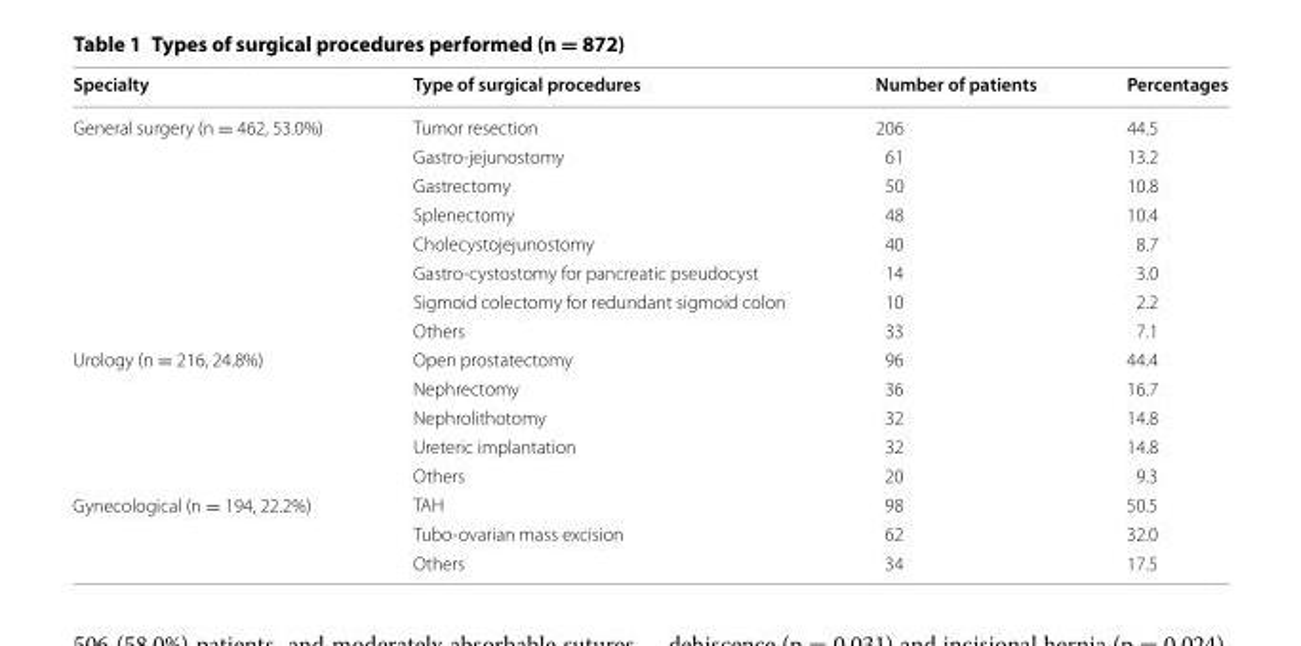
<table><thead><tr><td>Specialty</td><td>Type of surgical procedures</td><td>Number of patients</td><td>Percentages</td></tr></thead><tbody><tr><td rowspan="8">General surgery (n = 462, 53.0%)</td><td>Tumor resection</td><td>206</td><td>44.5</td></tr><tr><td>Gastro-jejunostomy</td><td>61</td><td>13.2</td></tr><tr><td>Gastrectomy</td><td>50</td><td>10.8</td></tr><tr><td>Splenectomy</td><td>48</td><td>10.4</td></tr><tr><td>Cholecystojejunostomy</td><td>40</td><td>8.7</td></tr><tr><td>Gastro-cystostomy for pancreatic pseudocyst</td><td>14</td><td>3.0</td></tr><tr><td>Sigmoid colectomy for redundant sigmoid colon</td><td>10</td><td>2.2</td></tr><tr><td>Others</td><td>33</td><td>7.1</td></tr><tr><td rowspan="5">Urology (n = 216, 24.8%)</td><td>Open prostatectomy</td><td>96</td><td>44.4</td></tr><tr><td>Nephrectomy</td><td>36</td><td>16.7</td></tr><tr><td>Nephrolithotomy</td><td>32</td><td>14.8</td></tr><tr><td>Ureteric implantation</td><td>32</td><td>14.8</td></tr><tr><td>Others</td><td>20</td><td>9.3</td></tr><tr><td rowspan="3">Gynecological (n = 194, 22.2%)</td><td>TAH</td><td>98</td><td>50.5</td></tr><tr><td>Tubo-ovarian mass excision</td><td>62</td><td>32.0</td></tr><tr><td>Others</td><td>34</td><td>17.5</td></tr></tbody></table>